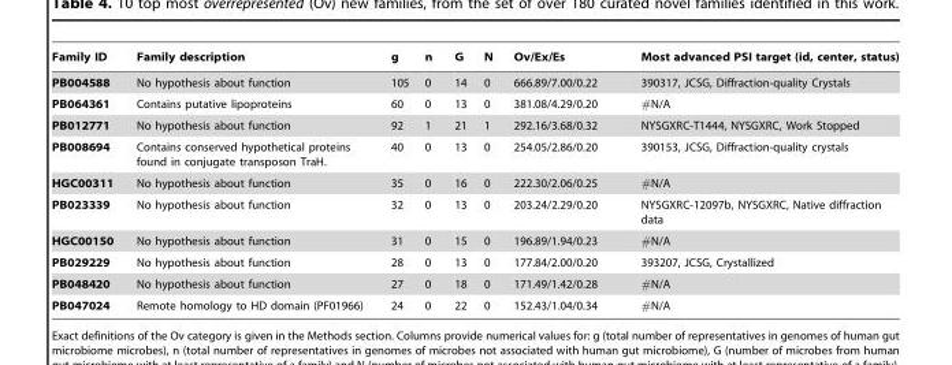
<table><thead><tr><td>Family ID</td><td>Family description</td><td>g</td><td>n</td><td>G</td><td>N</td><td>Ov/Ex/Es</td><td>Most advanced PSI target (id, center, status)</td></tr></thead><tbody><tr><td>PB004588</td><td>No hypothesis about function</td><td>105</td><td>0</td><td>14</td><td>0</td><td>666.89/7.00/0.22</td><td>390317, JCSG, Diffraction-quality Crystals</td></tr><tr><td>PB064361</td><td>Contains putative lipoproteins</td><td>60</td><td>0</td><td>13</td><td>0</td><td>381.08/4.29/0.20</td><td>#N/A</td></tr><tr><td>PB012771</td><td>No hypothesis about function</td><td>92</td><td>1</td><td>21</td><td>1</td><td>292.16/3.68/0.32</td><td>NYSGXRC-T1444, NYSGXRC, Work Stopped</td></tr><tr><td>PB008694</td><td>Contains conserved hypothetical proteins found in conjugate transposon TraH.</td><td>40</td><td>0</td><td>13</td><td>0</td><td>254.05/2.86/0.20</td><td>390153, JCSG, Diffraction-quality crystals</td></tr><tr><td>HGC00311</td><td>No hypothesis about function</td><td>35</td><td>0</td><td>16</td><td>0</td><td>222.30/2.06/0.25</td><td>#N/A</td></tr><tr><td>PB023339</td><td>No hypothesis about function</td><td>32</td><td>0</td><td>13</td><td>0</td><td>203.24/2.29/0.20</td><td>NYSGXRC-12097b, NYSGXRC, Native diffraction data</td></tr><tr><td>HGC00150</td><td>No hypothesis about function</td><td>31</td><td>0</td><td>15</td><td>0</td><td>196.89/1.94/0.23</td><td>#N/A</td></tr><tr><td>PB029229</td><td>No hypothesis about function</td><td>28</td><td>0</td><td>13</td><td>0</td><td>177.84/2.00/0.20</td><td>393207, JCSG, Crystallized</td></tr><tr><td>PB048420</td><td>No hypothesis about function</td><td>27</td><td>0</td><td>18</td><td>0</td><td>171.49/1.42/0.28</td><td>#N/A</td></tr><tr><td>PB047024</td><td>Remote homology to HD domain (PF01966)</td><td>24</td><td>0</td><td>22</td><td>0</td><td>152.43/1.04/0.34</td><td>#N/A</td></tr></tbody></table>